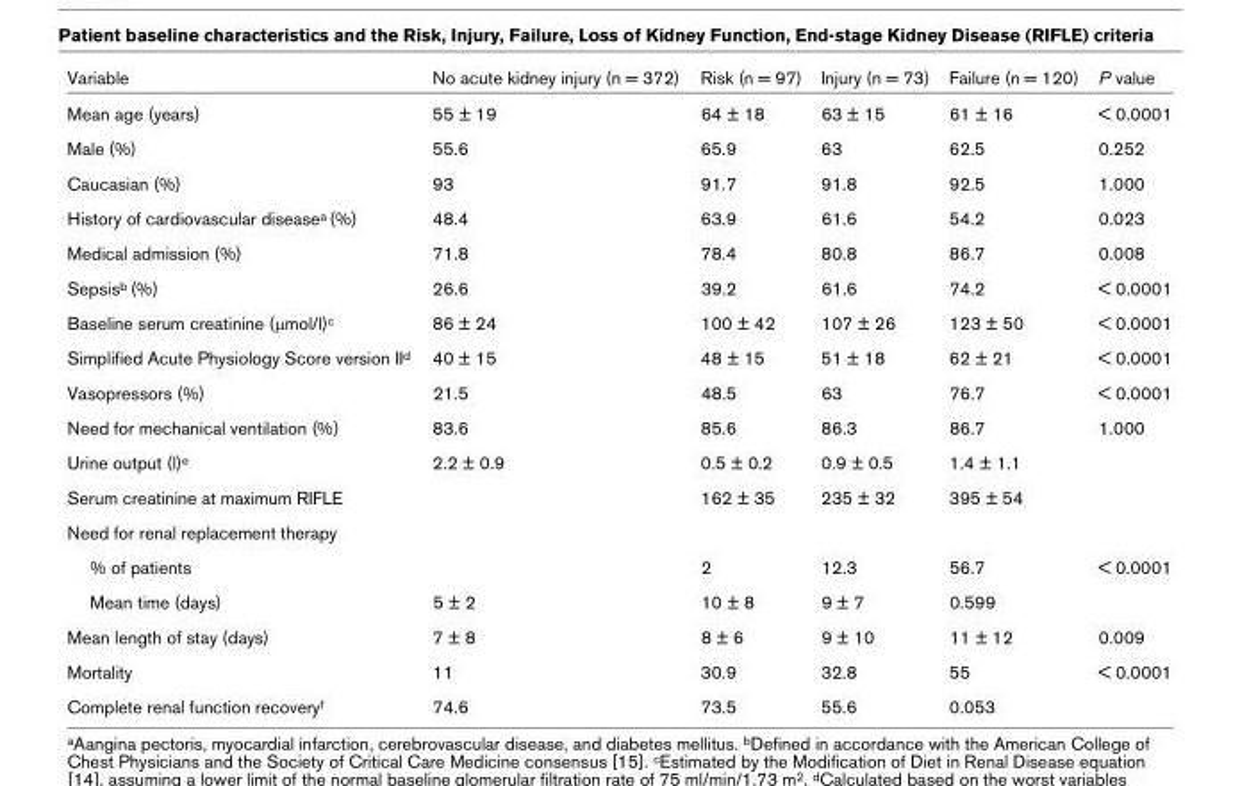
<table><thead><tr><td>Variable</td><td>No acute kidney injury (n = 372)</td><td>Risk (n = 97)</td><td>Injury (n = 73)</td><td>Failure (n = 120)</td><td>P value</td></tr></thead><tbody><tr><td>Mean age (years)</td><td>55 ± 19</td><td>64 ± 18</td><td>63 ± 15</td><td>61 ± 16</td><td>&lt; 0.0001</td></tr><tr><td>Male (%)</td><td>55.6</td><td>65.9</td><td>63</td><td>62.5</td><td>0.252</td></tr><tr><td>Caucasian (%)</td><td>93</td><td>91.7</td><td>91.8</td><td>92.5</td><td>1.000</td></tr><tr><td>History of cardiovascular disease<sup>a</sup> (%)</td><td>48.4</td><td>63.9</td><td>61.6</td><td>54.2</td><td>0.023</td></tr><tr><td>Medical admission (%)</td><td>71.8</td><td>78.4</td><td>80.8</td><td>86.7</td><td>0.008</td></tr><tr><td>Sepsis<sup>b</sup> (%)</td><td>26.6</td><td>39.2</td><td>61.6</td><td>74.2</td><td>&lt; 0.0001</td></tr><tr><td>Baseline serum creatinine (μmol/l)<sup>c</sup></td><td>86 ± 24</td><td>100 ± 42</td><td>107 ± 26</td><td>123 ± 50</td><td>&lt; 0.0001</td></tr><tr><td>Simplified Acute Physiology Score version II<sup>d</sup></td><td>40 ± 15</td><td>48 ± 15</td><td>51 ± 18</td><td>62 ± 21</td><td>&lt; 0.0001</td></tr><tr><td>Vasopressors (%)</td><td>21.5</td><td>48.5</td><td>63</td><td>76.7</td><td>&lt; 0.0001</td></tr><tr><td>Need for mechanical ventilation (%)</td><td>83.6</td><td>85.6</td><td>86.3</td><td>86.7</td><td>1.000</td></tr><tr><td>Urine output (l)<sup>e</sup></td><td>2.2 ± 0.9</td><td>0.5 ± 0.2</td><td>0.9 ± 0.5</td><td>1.4 ± 1.1</td><td></td></tr><tr><td>Serum creatinine at maximum RIFLE</td><td></td><td>162 ± 35</td><td>235 ± 32</td><td>395 ± 54</td><td></td></tr><tr><td colspan="6">Need for renal replacement therapy</td></tr><tr><td>% of patients</td><td></td><td>2</td><td>12.3</td><td>56.7</td><td>&lt; 0.0001</td></tr><tr><td>Mean time (days)</td><td>5 ± 2</td><td>10 ± 8</td><td>9 ± 7</td><td>0.599</td><td></td></tr><tr><td>Mean length of stay (days)</td><td>7 ± 8</td><td>8 ± 6</td><td>9 ± 10</td><td>11 ± 12</td><td>0.009</td></tr><tr><td>Mortality</td><td>11</td><td>30.9</td><td>32.8</td><td>55</td><td>&lt; 0.0001</td></tr><tr><td>Complete renal function recovery<sup>f</sup></td><td>74.6</td><td>73.5</td><td>55.6</td><td>0.053</td><td></td></tr></tbody></table>